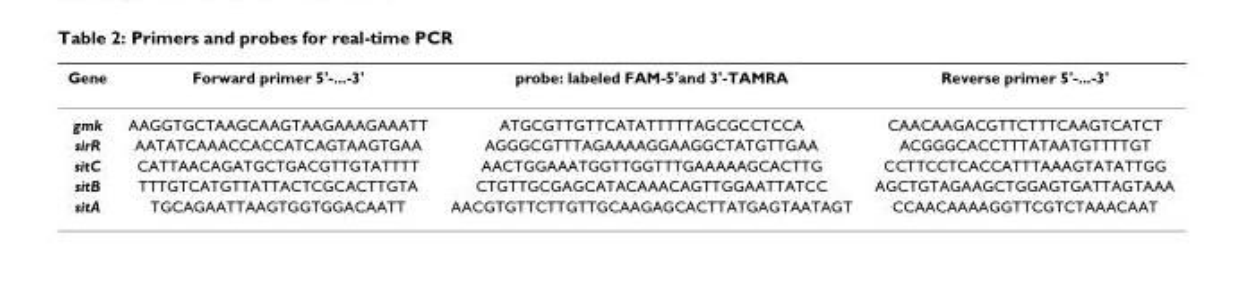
<table><thead><tr><td>Gene</td><td>Forward primer 5&#x27;-...-3&#x27;</td><td>probe: labeled FAM-5&#x27;and 3&#x27;-TAMRA</td><td>Reverse primer 5&#x27;-...-3&#x27;</td></tr></thead><tbody><tr><td>gmk</td><td>AAGGTGCTAAGCAAGTAAGAAAGAAATT</td><td>ATGCGTTGTTCATATTTTTAGCGCCTCCA</td><td>CAACAAGACGTTCTTTCAAGTCATCT</td></tr><tr><td>sirR</td><td>AATATCAAACCACCATCAGTAAGTGAA</td><td>AGGGCGTTTAGAAAAGGAAGGCTATGTTGAA</td><td>ACGGGCACCTTTATAATGTTTTGT</td></tr><tr><td>sitC</td><td>CATTAACAGATGCTGACGTTGTATTTT</td><td>AACTGGAAATGGTTGGTTTGAAAAAGCACTTG</td><td>CCTTCCTCACCATTTAAAGTATATTGG</td></tr><tr><td>sitB</td><td>TTTGTCATGTTATTACTCGCACTTGTA</td><td>CTGTTGCGAGCATACAAACAGTTGGAATTATCC</td><td>AGCTGTAGAAGCTGGAGTGATTAGTAAA</td></tr><tr><td>sitA</td><td>TGCAGAATTAAGTGGTGGACAATT</td><td>AACGTGTTCTTGTTGCAAGAGCACTTATGAGTAATAGT</td><td>CCAACAAAAGGTTCGTCTAAACAAT</td></tr></tbody></table>